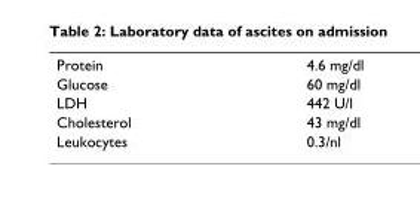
<table><tbody><tr><td>Protein</td><td>4.6 mg/dl</td></tr><tr><td>Glucose</td><td>60 mg/dl</td></tr><tr><td>LDH</td><td>442 U/l</td></tr><tr><td>Cholesterol</td><td>43 mg/dl</td></tr><tr><td>Leukocytes</td><td>0.3/nl</td></tr></tbody></table>